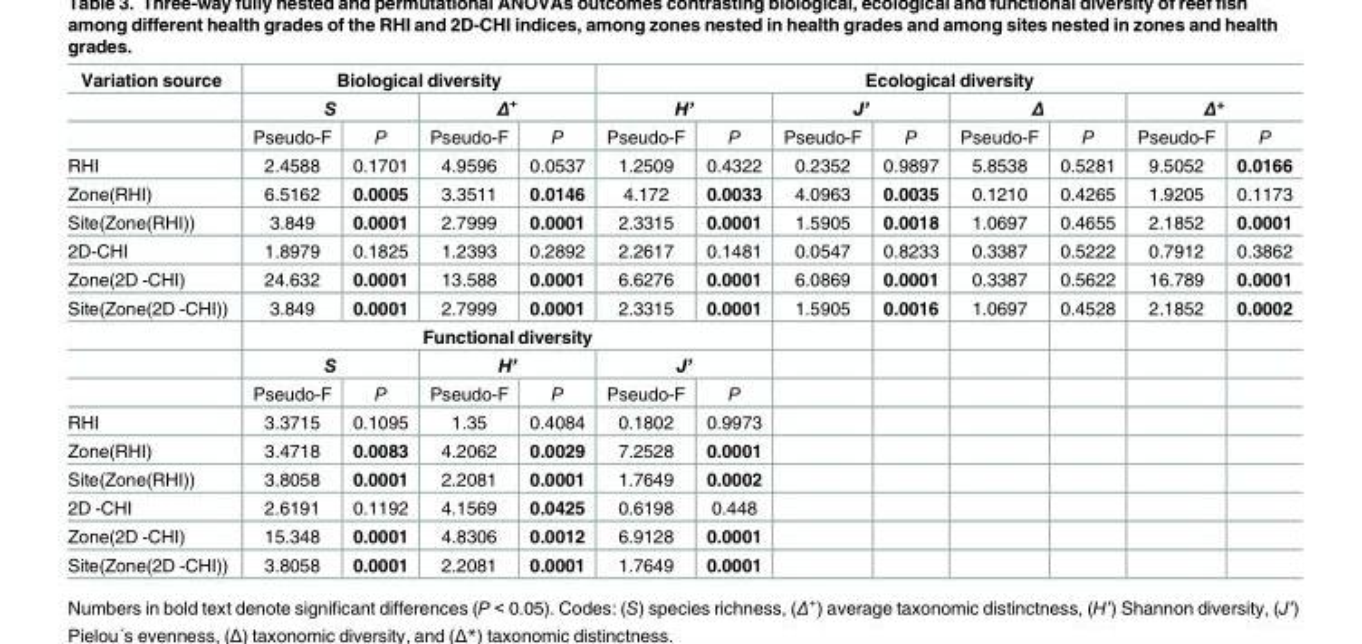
<table><tbody><tr><td rowspan="3">Variation source</td><td colspan="4">Biological diversity</td><td colspan="8">Ecological diversity</td></tr><tr><td colspan="2">S</td><td colspan="2">Δ<sup>+</sup></td><td colspan="2">H’</td><td colspan="2">J’</td><td colspan="2">Δ</td><td colspan="2">Δ*</td></tr><tr><td>Pseudo-F</td><td>P</td><td>Pseudo-F</td><td>P</td><td>Pseudo-F</td><td>P</td><td>Pseudo-F</td><td>P</td><td>Pseudo-F</td><td>P</td><td>Pseudo-F</td><td>P</td></tr><tr><td>RHI</td><td>2.4588</td><td>0.1701</td><td>4.9596</td><td>0.0537</td><td>1.2509</td><td>0.4322</td><td>0.2352</td><td>0.9897</td><td>5.8538</td><td>0.5281</td><td>9.5052</td><td>0.0166</td></tr><tr><td>Zone(RHI)</td><td>6.5162</td><td>0.0005</td><td>3.3511</td><td>0.0146</td><td>4.172</td><td>0.0033</td><td>4.0963</td><td>0.0035</td><td>0.1210</td><td>0.4265</td><td>1.9205</td><td>0.1173</td></tr><tr><td>Site(Zone(RHI))</td><td>3.849</td><td>0.0001</td><td>2.7999</td><td>0.0001</td><td>2.3315</td><td>0.0001</td><td>1.5905</td><td>0.0018</td><td>1.0697</td><td>0.4655</td><td>2.1852</td><td>0.0001</td></tr><tr><td>2D-CHI</td><td>1.8979</td><td>0.1825</td><td>1.2393</td><td>0.2892</td><td>2.2617</td><td>0.1481</td><td>0.0547</td><td>0.8233</td><td>0.3387</td><td>0.5222</td><td>0.7912</td><td>0.3862</td></tr><tr><td>Zone(2D -CHI)</td><td>24.632</td><td>0.0001</td><td>13.588</td><td>0.0001</td><td>6.6276</td><td>0.0001</td><td>6.0869</td><td>0.0001</td><td>0.3387</td><td>0.5622</td><td>16.789</td><td>0.0001</td></tr><tr><td rowspan="4">Site(Zone(2D -CHI))</td><td>3.849</td><td>0.0001</td><td>2.7999</td><td>0.0001</td><td>2.3315</td><td>0.0001</td><td>1.5905</td><td>0.0016</td><td>1.0697</td><td>0.4528</td><td>2.1852</td><td>0.0002</td></tr><tr><td colspan="6">Functional diversity</td><td></td><td></td><td></td><td></td><td></td><td></td></tr><tr><td colspan="2">S</td><td colspan="2">H’</td><td colspan="2">J’</td><td></td><td></td><td></td><td></td><td></td><td></td></tr><tr><td>Pseudo-F</td><td>P</td><td>Pseudo-F</td><td>P</td><td>Pseudo-F</td><td>P</td><td></td><td></td><td></td><td></td><td></td><td></td></tr><tr><td>RHI</td><td>3.3715</td><td>0.1095</td><td>1.35</td><td>0.4084</td><td>0.1802</td><td>0.9973</td><td></td><td></td><td></td><td></td><td></td><td></td></tr><tr><td>Zone(RHI)</td><td>3.4718</td><td>0.0083</td><td>4.2062</td><td>0.0029</td><td>7.2528</td><td>0.0001</td><td></td><td></td><td></td><td></td><td></td><td></td></tr><tr><td>Site(Zone(RHI))</td><td>3.8058</td><td>0.0001</td><td>2.2081</td><td>0.0001</td><td>1.7649</td><td>0.0002</td><td></td><td></td><td></td><td></td><td></td><td></td></tr><tr><td>2D -CHI</td><td>2.6191</td><td>0.1192</td><td>4.1569</td><td>0.0425</td><td>0.6198</td><td>0.448</td><td></td><td></td><td></td><td></td><td></td><td></td></tr><tr><td>Zone(2D -CHI)</td><td>15.348</td><td>0.0001</td><td>4.8306</td><td>0.0012</td><td>6.9128</td><td>0.0001</td><td></td><td></td><td></td><td></td><td></td><td></td></tr><tr><td>Site(Zone(2D -CHI))</td><td>3.8058</td><td>0.0001</td><td>2.2081</td><td>0.0001</td><td>1.7649</td><td>0.0001</td><td></td><td></td><td></td><td></td><td></td><td></td></tr></tbody></table>